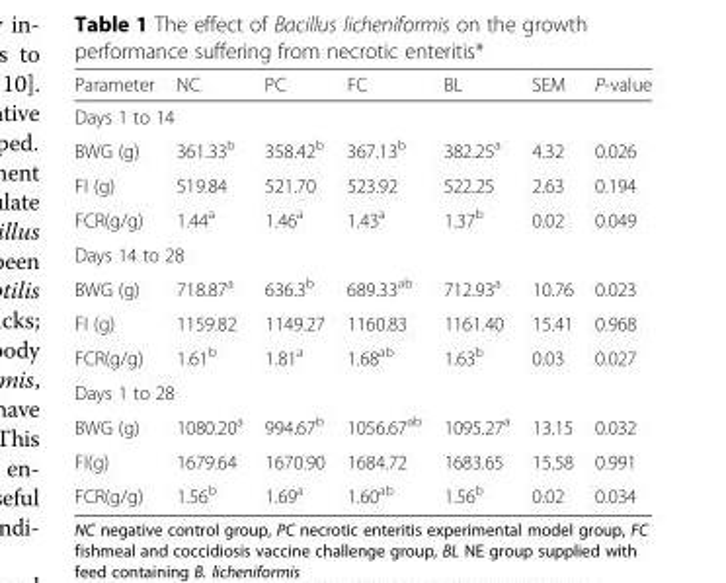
<table><thead><tr><td>Parameter</td><td>NC</td><td>PC</td><td>FC</td><td>BL</td><td>SEM</td><td>P-value</td></tr></thead><tbody><tr><td colspan="7">Days 1 to 14</td></tr><tr><td>BWG (g)</td><td>361.33<sup>b</sup></td><td>358.42<sup>b</sup></td><td>367.13<sup>b</sup></td><td>382.25<sup>a</sup></td><td>4.32</td><td>0.026</td></tr><tr><td>FI (g)</td><td>519.84</td><td>521.70</td><td>523.92</td><td>522.25</td><td>2.63</td><td>0.194</td></tr><tr><td>FCR(g/g)</td><td>1.44<sup>a</sup></td><td>1.46<sup>a</sup></td><td>1.43<sup>a</sup></td><td>1.37<sup>b</sup></td><td>0.02</td><td>0.049</td></tr><tr><td colspan="7">Days 14 to 28</td></tr><tr><td>BWG (g)</td><td>718.87<sup>a</sup></td><td>636.3<sup>b</sup></td><td>689.33<sup>ab</sup></td><td>712.93<sup>a</sup></td><td>10.76</td><td>0.023</td></tr><tr><td>FI (g)</td><td>1159.82</td><td>1149.27</td><td>1160.83</td><td>1161.40</td><td>15.41</td><td>0.968</td></tr><tr><td>FCR(g/g)</td><td>1.61<sup>b</sup></td><td>1.81<sup>a</sup></td><td>1.68<sup>ab</sup></td><td>1.63<sup>b</sup></td><td>0.03</td><td>0.027</td></tr><tr><td colspan="7">Days 1 to 28</td></tr><tr><td>BWG (g)</td><td>1080.20<sup>a</sup></td><td>994.67<sup>b</sup></td><td>1056.67<sup>ab</sup></td><td>1095.27<sup>a</sup></td><td>13.15</td><td>0.032</td></tr><tr><td>FI(g)</td><td>1679.64</td><td>1670.90</td><td>1684.72</td><td>1683.65</td><td>15.58</td><td>0.991</td></tr><tr><td>FCR(g/g)</td><td>1.56<sup>b</sup></td><td>1.69<sup>a</sup></td><td>1.60<sup>ab</sup></td><td>1.56<sup>b</sup></td><td>0.02</td><td>0.034</td></tr></tbody></table>